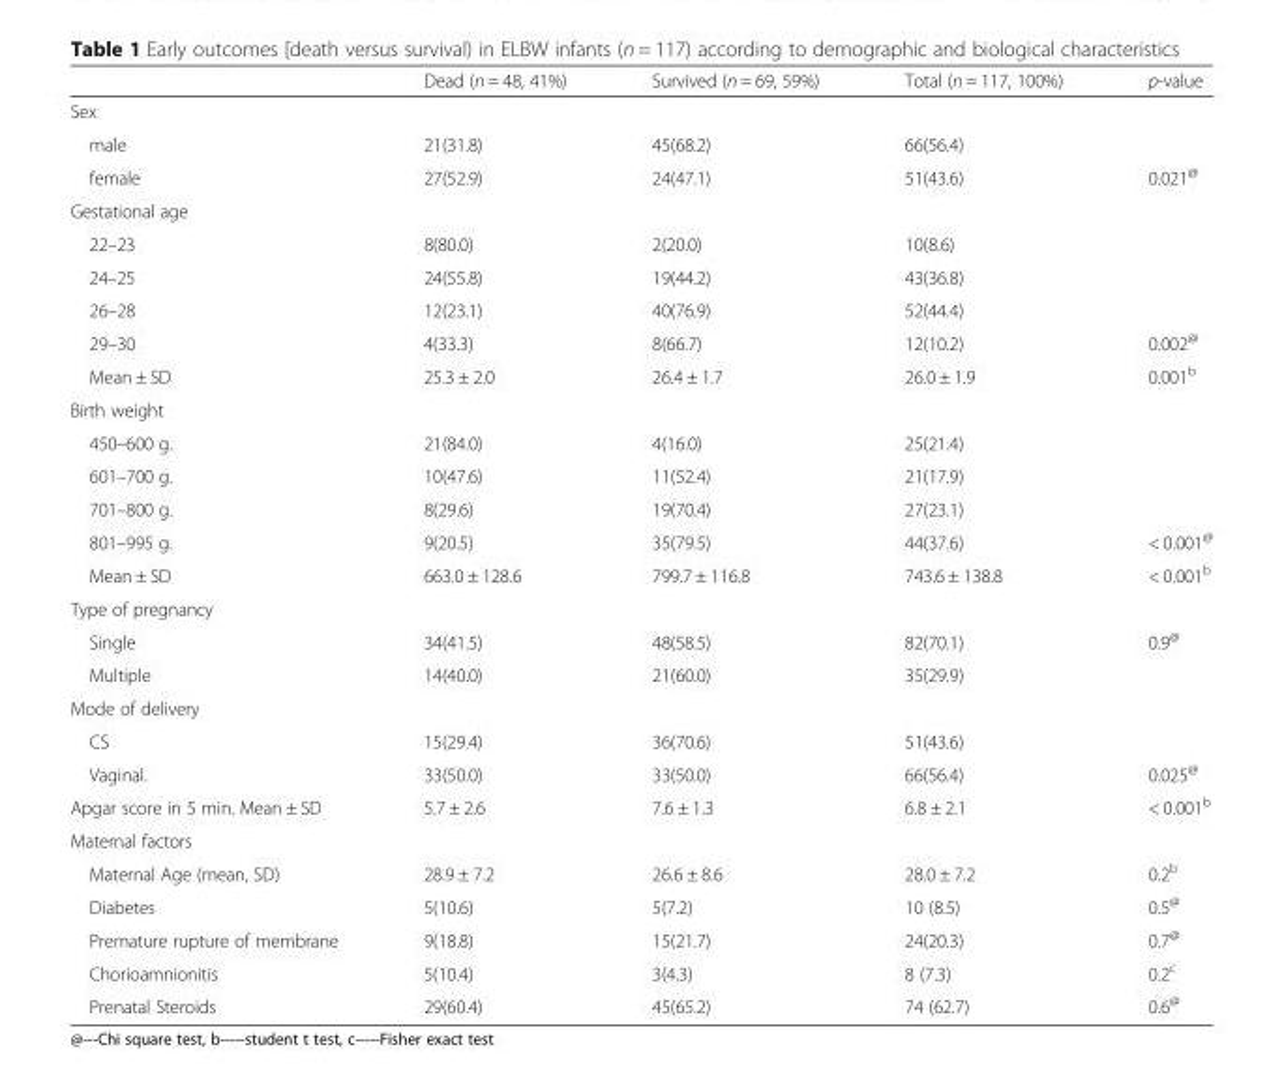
<table><thead><tr><td></td><td>Dead (n = 48, 41%)</td><td>Survived (n = 69, 59%)</td><td>Total (n = 117, 100%)</td><td>p-value</td></tr></thead><tbody><tr><td colspan="5">Sex</td></tr><tr><td>male</td><td>21(31.8)</td><td>45(68.2)</td><td>66(56.4)</td><td></td></tr><tr><td>female</td><td>27(52.9)</td><td>24(47.1)</td><td>51(43.6)</td><td>0.021<sup>@</sup></td></tr><tr><td colspan="5">Gestational age</td></tr><tr><td>22–23</td><td>8(80.0)</td><td>2(20.0)</td><td>10(8.6)</td><td></td></tr><tr><td>24–25</td><td>24(55.8)</td><td>19(44.2)</td><td>43(36.8)</td><td></td></tr><tr><td>26–28</td><td>12(23.1)</td><td>40(76.9)</td><td>52(44.4)</td><td></td></tr><tr><td>29–30</td><td>4(33.3)</td><td>8(66.7)</td><td>12(10.2)</td><td>0.002<sup>@</sup></td></tr><tr><td>Mean ± SD</td><td>25.3 ± 2.0</td><td>26.4 ± 1.7</td><td>26.0 ± 1.9</td><td>0.001<sup>b</sup></td></tr><tr><td colspan="5">Birth weight</td></tr><tr><td>450–600 g.</td><td>21(84.0)</td><td>4(16.0)</td><td>25(21.4)</td><td></td></tr><tr><td>601–700 g.</td><td>10(47.6)</td><td>11(52.4)</td><td>21(17.9)</td><td></td></tr><tr><td>701–800 g.</td><td>8(29.6)</td><td>19(70.4)</td><td>27(23.1)</td><td></td></tr><tr><td>801–995 g.</td><td>9(20.5)</td><td>35(79.5)</td><td>44(37.6)</td><td>&lt; 0.001<sup>@</sup></td></tr><tr><td>Mean ± SD</td><td>663.0 ± 128.6</td><td>799.7 ± 116.8</td><td>743.6 ± 138.8</td><td>&lt; 0.001<sup>b</sup></td></tr><tr><td colspan="5">Type of pregnancy</td></tr><tr><td>Single</td><td>34(41.5)</td><td>48(58.5)</td><td>82(70.1)</td><td rowspan="2">0.9<sup>@</sup></td></tr><tr><td>Multiple</td><td>14(40.0)</td><td>21(60.0)</td><td>35(29.9)</td></tr><tr><td colspan="5">Mode of delivery</td></tr><tr><td>CS</td><td>15(29.4)</td><td>36(70.6)</td><td>51(43.6)</td><td></td></tr><tr><td>Vaginal.</td><td>33(50.0)</td><td>33(50.0)</td><td>66(56.4)</td><td>0.025<sup>@</sup></td></tr><tr><td>Apgar score in 5 min. Mean ± SD</td><td>5.7 ± 2.6</td><td>7.6 ± 1.3</td><td>6.8 ± 2.1</td><td>&lt; 0.001<sup>b</sup></td></tr><tr><td colspan="5">Maternal factors</td></tr><tr><td>Maternal Age (mean, SD)</td><td>28.9 ± 7.2</td><td>26.6 ± 8.6</td><td>28.0 ± 7.2</td><td>0.2<sup>b</sup></td></tr><tr><td>Diabetes</td><td>5(10.6)</td><td>5(7.2)</td><td>10 (8.5)</td><td>0.5<sup>@</sup></td></tr><tr><td>Premature rupture of membrane</td><td>9(18.8)</td><td>15(21.7)</td><td>24(20.3)</td><td>0.7<sup>@</sup></td></tr><tr><td>Chorioamnionitis</td><td>5(10.4)</td><td>3(4.3)</td><td>8 (7.3)</td><td>0.2<sup>c</sup></td></tr><tr><td>Prenatal Steroids</td><td>29(60.4)</td><td>45(65.2)</td><td>74 (62.7)</td><td>0.6<sup>@</sup></td></tr></tbody></table>